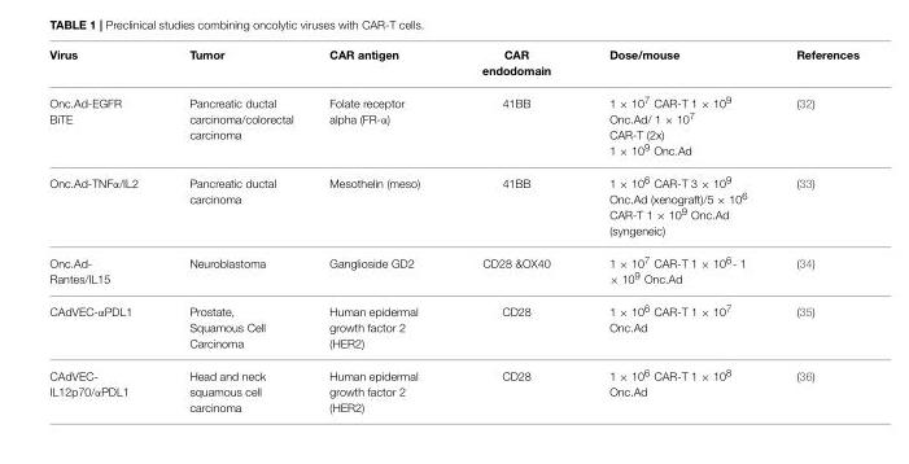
<table><thead><tr><td>Virus</td><td>Tumor</td><td>CAR antigen</td><td>CAR endodomain</td><td>Dose/mouse</td><td>References</td></tr></thead><tbody><tr><td>Onc.Ad-EGFR BiTE</td><td>Pancreatic ductal carcinoma/colorectal carcinoma</td><td>Folate receptor alpha (FR-α)</td><td>41BB</td><td>1 × 10<sup>7</sup> CAR-T 1 × 10<sup>9</sup> Onc.Ad/ 1 × 10<sup>7</sup> CAR-T (2x) 1 × 10<sup>9</sup> Onc.Ad</td><td>(32)</td></tr><tr><td>Onc.Ad-TNFα/IL2</td><td>Pancreatic ductal carcinoma</td><td>Mesothelin (meso)</td><td>41BB</td><td>1 × 10<sup>6</sup> CAR-T 3 × 10<sup>9</sup> Onc.Ad (xenograft)/5 × 10<sup>6</sup> CAR-T 1 × 10<sup>9</sup> Onc.Ad (syngeneic)</td><td>(33)</td></tr><tr><td>Onc.Ad- Rantes/IL15</td><td>Neuroblastoma</td><td>Ganglioside GD2</td><td>CD28 &amp;OX40</td><td>1 × 10<sup>7</sup> CAR-T 1 × 10<sup>6</sup>- 1 × 10<sup>9</sup> Onc.Ad</td><td>(34)</td></tr><tr><td>CAdVEC-αPDL1</td><td>Prostate, Squamous Cell Carcinoma</td><td>Human epidermal growth factor 2 (HER2)</td><td>CD28</td><td>1 × 10<sup>6</sup> CAR-T 1 × 10<sup>7</sup> Onc.Ad</td><td>(35)</td></tr><tr><td>CAdVEC- IL12p70/αPDL1</td><td>Head and neck squamous cell carcinoma</td><td>Human epidermal growth factor 2 (HER2)</td><td>CD28</td><td>1 × 10<sup>6</sup> CAR-T 1 × 10<sup>8</sup> Onc.Ad</td><td>(36)</td></tr></tbody></table>